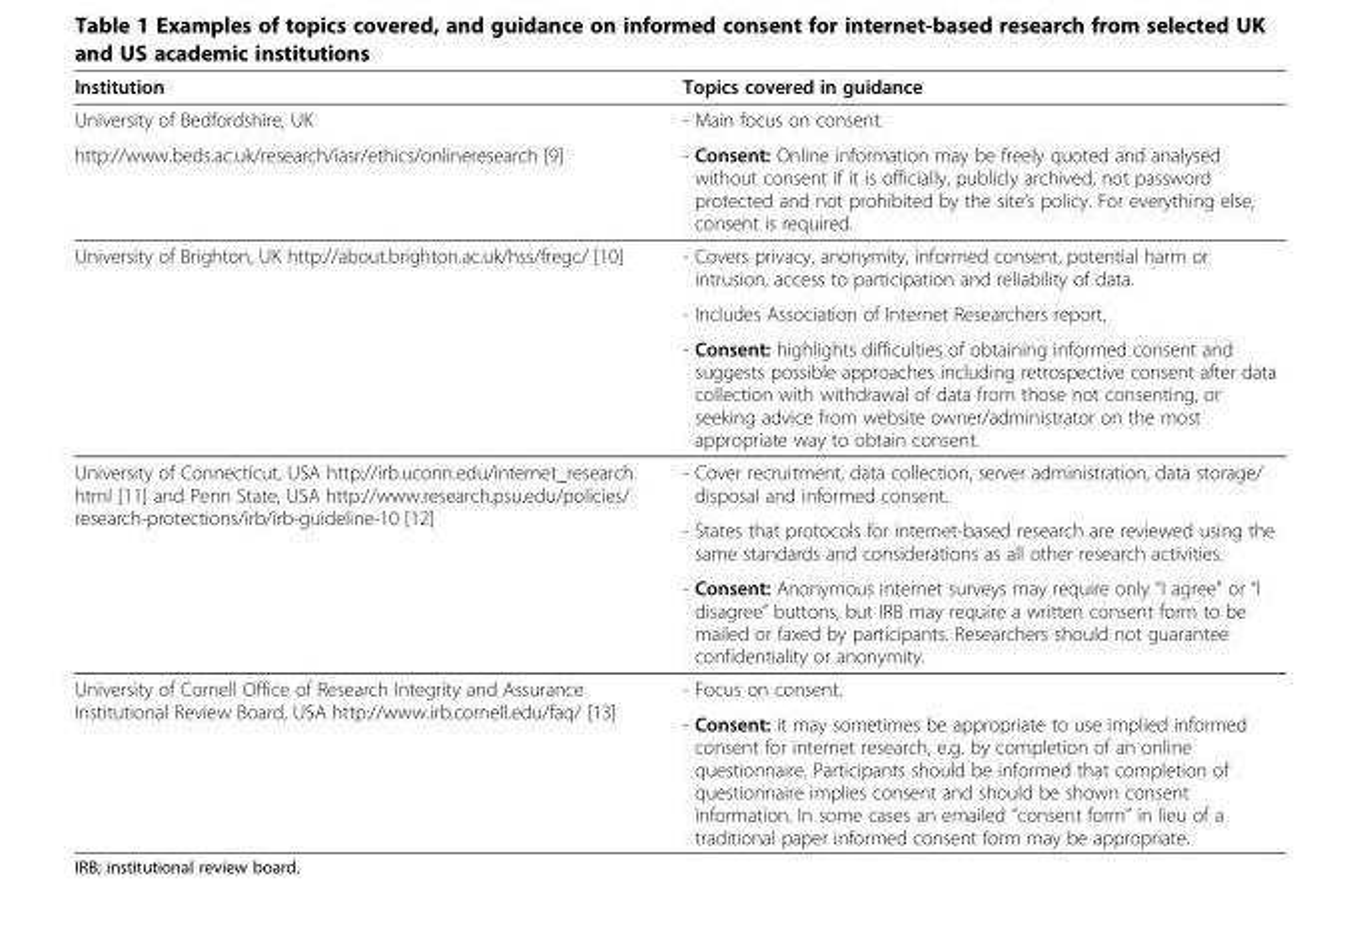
<table><thead><tr><td>Institution</td><td>Topics covered in guidance</td></tr></thead><tbody><tr><td>University of Bedfordshire, UK</td><td>- Main focus on consent.</td></tr><tr><td>http://www.beds.ac.uk/research/iasr/ethics/onlineresearch [9]</td><td>- Consent: Online information may be freely quoted and analysed without consent if it is officially, publicly archived, not password protected and not prohibited by the site’s policy. For everything else, consent is required.</td></tr><tr><td rowspan="3">University of Brighton, UK http://about.brighton.ac.uk/hss/fregc/ [10]</td><td>- Covers privacy, anonymity, informed consent, potential harm or intrusion, access to participation and reliability of data.</td></tr><tr><td>- Includes Association of Internet Researchers report.</td></tr><tr><td>- Consent: highlights difficulties of obtaining informed consent and suggests possible approaches including retrospective consent after data collection with withdrawal of data from those not consenting, or seeking advice from website owner/administrator on the most appropriate way to obtain consent.</td></tr><tr><td rowspan="3">University of Connecticut, USA http://irb.uconn.edu/internet_research. html [11] and Penn State, USA http://www.research.psu.edu/policies/ research-protections/irb/irb-guideline-10 [12]</td><td>- Cover recruitment, data collection, server administration, data storage/ disposal and informed consent.</td></tr><tr><td>- States that protocols for internet-based research are reviewed using the same standards and considerations as all other research activities.</td></tr><tr><td>- Consent: Anonymous internet surveys may require only “I agree” or “I disagree” buttons, but IRB may require a written consent form to be mailed or faxed by participants. Researchers should not guarantee confidentiality or anonymity.</td></tr><tr><td rowspan="2">University of Cornell Office of Research Integrity and Assurance Institutional Review Board, USA http://www.irb.cornell.edu/faq/ [13]</td><td>- Focus on consent.</td></tr><tr><td>- Consent: it may sometimes be appropriate to use implied informed consent for internet research, e.g. by completion of an online questionnaire. Participants should be informed that completion of questionnaire implies consent and should be shown consent information. In some cases an emailed “consent form” in lieu of a traditional paper informed consent form may be appropriate.</td></tr></tbody></table>